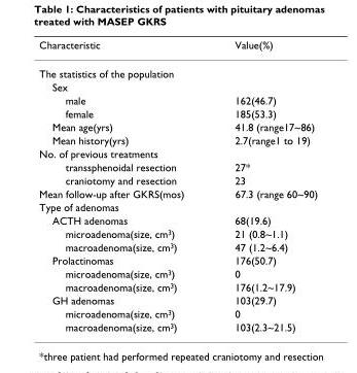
<table><thead><tr><td>Characteristic</td><td>Value(%)</td></tr></thead><tbody><tr><td colspan="2">The statistics of the population</td></tr><tr><td colspan="2">Sex</td></tr><tr><td>male</td><td>162(46.7)</td></tr><tr><td>female</td><td>185(53.3)</td></tr><tr><td>Mean age(yrs)</td><td>41.8 (range17~86)</td></tr><tr><td>Mean history(yrs)</td><td>2.7(range1 to 19)</td></tr><tr><td colspan="2">No. of previous treatments</td></tr><tr><td>transsphenoidal resection</td><td>27*</td></tr><tr><td>craniotomy and resection</td><td>23</td></tr><tr><td>Mean follow-up after GKRS(mos)</td><td>67.3 (range 60~90)</td></tr><tr><td colspan="2">Type of adenomas</td></tr><tr><td>ACTH adenomas</td><td>68(19.6)</td></tr><tr><td>microadenoma(size, cm<sup>3</sup>)</td><td>21 (0.8~1.1)</td></tr><tr><td>macroadenoma(size, cm<sup>3</sup>)</td><td>47 (1.2~6.4)</td></tr><tr><td>Prolactinomas</td><td>176(50.7)</td></tr><tr><td>microadenoma(size, cm<sup>3</sup>)</td><td>0</td></tr><tr><td>macroadenoma(size, cm<sup>3</sup>)</td><td>176(1.2~17.9)</td></tr><tr><td>GH adenomas</td><td>103(29.7)</td></tr><tr><td>microadenoma(size, cm<sup>3</sup>)</td><td>0</td></tr><tr><td>macroadenoma(size, cm<sup>3</sup>)</td><td>103(2.3~21.5)</td></tr></tbody></table>